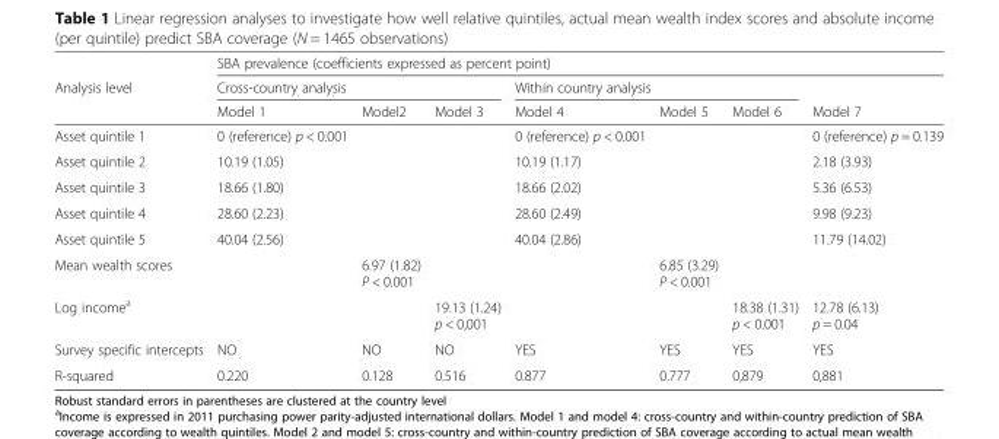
<table><thead><tr><td rowspan="3">Analysis level</td><td colspan="7">SBA prevalence (coefficients expressed as percent point)</td></tr><tr><td colspan="3">Cross-country analysis</td><td colspan="3">Within country analysis</td><td rowspan="2">Model 7</td></tr><tr><td>Model 1</td><td>Model2</td><td>Model 3</td><td>Model 4</td><td>Model 5</td><td>Model 6</td></tr></thead><tbody><tr><td>Asset quintile 1</td><td>0 (reference) p &lt; 0.001</td><td></td><td></td><td>0 (reference) p &lt; 0.001</td><td></td><td></td><td>0 (reference) p = 0.139</td></tr><tr><td>Asset quintile 2</td><td>10.19 (1.05)</td><td></td><td></td><td>10.19 (1.17)</td><td></td><td></td><td>2.18 (3.93)</td></tr><tr><td>Asset quintile 3</td><td>18.66 (1.80)</td><td></td><td></td><td>18.66 (2.02)</td><td></td><td></td><td>5.36 (6.53)</td></tr><tr><td>Asset quintile 4</td><td>28.60 (2.23)</td><td></td><td></td><td>28.60 (2.49)</td><td></td><td></td><td>9.98 (9.23)</td></tr><tr><td>Asset quintile 5</td><td>40.04 (2.56)</td><td></td><td></td><td>40.04 (2.86)</td><td></td><td></td><td>11.79 (14.02)</td></tr><tr><td>Mean wealth scores</td><td></td><td>6.97 (1.82) P &lt; 0.001</td><td></td><td></td><td>6.85 (3.29) P &lt; 0.001</td><td></td><td></td></tr><tr><td>Log income<sup>a</sup></td><td></td><td></td><td>19.13 (1.24) p &lt; 0,001</td><td></td><td></td><td>18.38 (1.31) p &lt; 0.001</td><td>12.78 (6.13) p = 0.04</td></tr><tr><td>Survey specific intercepts</td><td>NO</td><td>NO</td><td>NO</td><td>YES</td><td>YES</td><td>YES</td><td>YES</td></tr><tr><td>R-squared</td><td>0.220</td><td>0.128</td><td>0.516</td><td>0.877</td><td>0.777</td><td>0,879</td><td>0,881</td></tr></tbody></table>